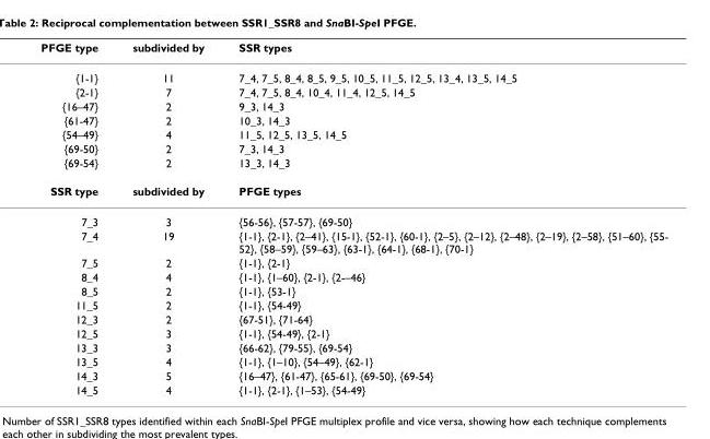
<table><thead><tr><td>PFGE type</td><td>subdivided by</td><td>SSR types</td></tr></thead><tbody><tr><td>{1-1}</td><td>11</td><td>7_4, 7_5, 8_4, 8_5, 9_5, 10_5, 11_5, 12_5, 13_4, 13_5, 14_5</td></tr><tr><td>{2-1}</td><td>7</td><td>7_4, 7_5, 8_4, 10_4, 11_4, 12_5, 14_5</td></tr><tr><td>{16–47}</td><td>2</td><td>9_3, 14_3</td></tr><tr><td>{61-47}</td><td>2</td><td>10_3, 14_3</td></tr><tr><td>{54–49}</td><td>4</td><td>11_5, 12_5, 13_5, 14_5</td></tr><tr><td>{69-50}</td><td>2</td><td>7_3, 14_3</td></tr><tr><td>{69-54}</td><td>2</td><td>13_3, 14_3</td></tr><tr><td>SSR type</td><td>subdivided by</td><td>PFGE types</td></tr><tr><td>7_3</td><td>3</td><td>{56-56}, {57-57}, {69-50}</td></tr><tr><td>7_4</td><td>19</td><td>{1-1}, {2-1}, {2–41}, {15-1}, {52-1}, {60-1}, {2–5}, {2–12}, {2–48}, {2–19}, {2–58}, {51–60}, {55- 52}, {58–59}, {59–63}, {63-1}, {64-1}, {68-1}, {70-1}</td></tr><tr><td>7_5</td><td>2</td><td>{1-1}, {2-1}</td></tr><tr><td>8_4</td><td>4</td><td>{1-1}, {1–60}, {2-1}, {2-–46}</td></tr><tr><td>8_5</td><td>2</td><td>{1-1}, {53-1}</td></tr><tr><td>11_5</td><td>2</td><td>{1-1}, {54-49}</td></tr><tr><td>12_3</td><td>2</td><td>{67-51}, {71-64}</td></tr><tr><td>12_5</td><td>3</td><td>{1-1}, {54-49}, {2-1}</td></tr><tr><td>13_3</td><td>3</td><td>{66-62}, {79-55}, {69-54}</td></tr><tr><td>13_5</td><td>4</td><td>{1-1}, {1–10}, {54–49}, {62-1}</td></tr><tr><td>14_3</td><td>5</td><td>{16–47}, {61-47}, {65-61}, {69-50}, {69-54}</td></tr><tr><td>14_5</td><td>4</td><td>{1-1}, {2-1}, {1–53}, {54-49}</td></tr></tbody></table>